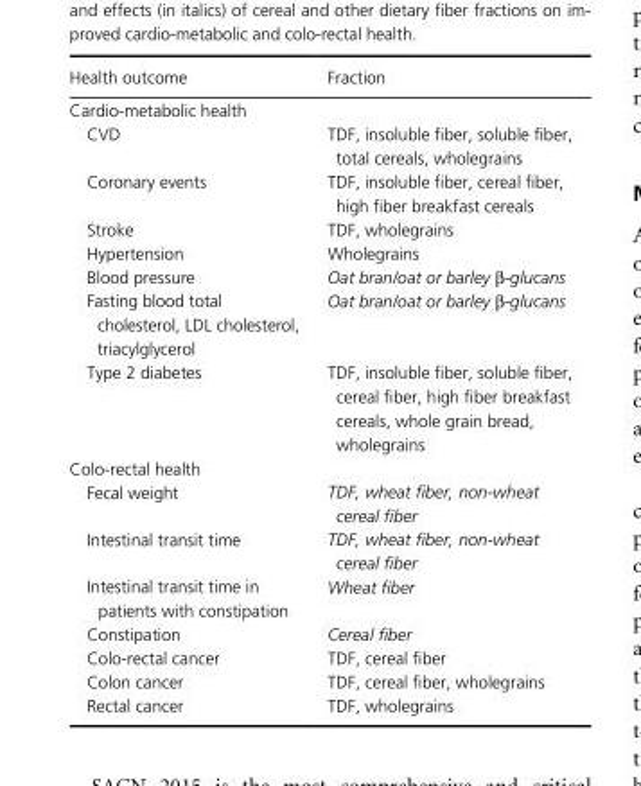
<table><thead><tr><td>Health outcome</td><td>Fraction</td></tr></thead><tbody><tr><td colspan="2">Cardio- metabolic health</td></tr><tr><td>CVD</td><td>TDF, insoluble fiber, soluble fiber, total cereals, wholegrains</td></tr><tr><td>Coronary events</td><td>TDF, insoluble fiber, cereal fiber, high fiber breakfast cereals</td></tr><tr><td>Stroke</td><td>TDF, wholegrains</td></tr><tr><td>Hypertension</td><td>Wholegrains</td></tr><tr><td>Blood pressure</td><td>Oat bran/oat or barley β-glucans</td></tr><tr><td>Fasting blood total cholesterol, LDL cholesterol, triacylglycerol</td><td>Oat bran/oat or barley β-glucans</td></tr><tr><td>Type 2 diabetes</td><td>TDF, insoluble fiber, soluble fiber, cereal fiber, high fiber breakfast cereals, whole grain bread, wholegrains</td></tr><tr><td colspan="2">Colo- rectal health</td></tr><tr><td>Fecal weight</td><td>TDF, wheat fiber, non-wheat cereal fiber</td></tr><tr><td>Intestinal transit time</td><td>TDF, wheat fiber, non-wheat cereal fiber</td></tr><tr><td>Intestinal transit time in patients with constipation</td><td>Wheat fiber</td></tr><tr><td>Constipation</td><td>Cereal fiber</td></tr><tr><td>Colo- rectal cancer</td><td>TDF, cereal fiber</td></tr><tr><td>Colon cancer</td><td>TDF, cereal fiber, wholegrains</td></tr><tr><td>Rectal cancer</td><td>TDF, wholegrains</td></tr></tbody></table>